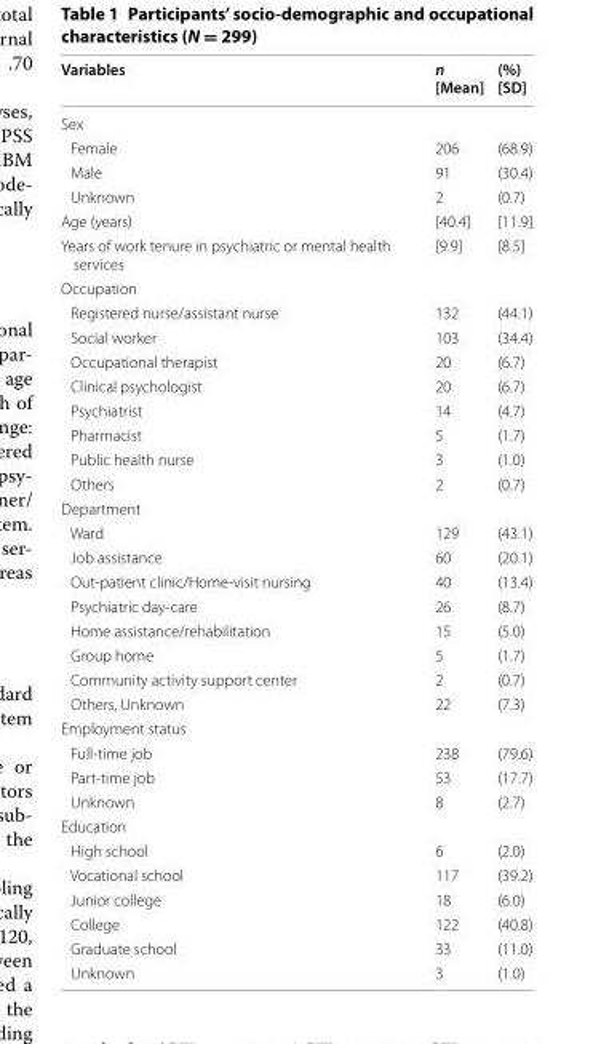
<table><thead><tr><td>Variables</td><td>n [Mean]</td><td>(%) [SD]</td></tr></thead><tbody><tr><td colspan="3">Sex</td></tr><tr><td>Female</td><td>206</td><td>(68.9)</td></tr><tr><td>Male</td><td>91</td><td>(30.4)</td></tr><tr><td>Unknown</td><td>2</td><td>(0.7)</td></tr><tr><td>Age (years)</td><td>[40.4]</td><td>[11.9]</td></tr><tr><td>Years of work tenure in psychiatric or mental health services</td><td>[9.9]</td><td>[8.5]</td></tr><tr><td colspan="3">Occupation</td></tr><tr><td>Registered nurse/assistant nurse</td><td>132</td><td>(44.1)</td></tr><tr><td>Social worker</td><td>103</td><td>(34.4)</td></tr><tr><td>Occupational therapist</td><td>20</td><td>(6.7)</td></tr><tr><td>Clinical psychologist</td><td>20</td><td>(6.7)</td></tr><tr><td>Psychiatrist</td><td>14</td><td>(4.7)</td></tr><tr><td>Pharmacist</td><td>5</td><td>(1.7)</td></tr><tr><td>Public health nurse</td><td>3</td><td>(1.0)</td></tr><tr><td>Others</td><td>2</td><td>(0.7)</td></tr><tr><td colspan="3">Department</td></tr><tr><td>Ward</td><td>129</td><td>(43.1)</td></tr><tr><td>Job assistance</td><td>60</td><td>(20.1)</td></tr><tr><td>Out-patient clinic/Home-visit nursing</td><td>40</td><td>(13.4)</td></tr><tr><td>Psychiatric day-care</td><td>26</td><td>(8.7)</td></tr><tr><td>Home assistance/rehabilitation</td><td>15</td><td>(5.0)</td></tr><tr><td>Group home</td><td>5</td><td>(1.7)</td></tr><tr><td>Community activity support center</td><td>2</td><td>(0.7)</td></tr><tr><td>Others, Unknown</td><td>22</td><td>(7.3)</td></tr><tr><td colspan="3">Employment status</td></tr><tr><td>Full-time job</td><td>238</td><td>(79.6)</td></tr><tr><td>Part-time job</td><td>53</td><td>(17.7)</td></tr><tr><td>Unknown</td><td>8</td><td>(2.7)</td></tr><tr><td colspan="3">Education</td></tr><tr><td>High school</td><td>6</td><td>(2.0)</td></tr><tr><td>Vocational school</td><td>117</td><td>(39.2)</td></tr><tr><td>Junior college</td><td>18</td><td>(6.0)</td></tr><tr><td>College</td><td>122</td><td>(40.8)</td></tr><tr><td>Graduate school</td><td>33</td><td>(11.0)</td></tr><tr><td>Unknown</td><td>3</td><td>(1.0)</td></tr></tbody></table>